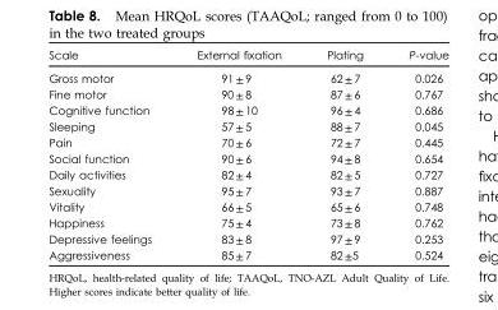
<table><thead><tr><td>Scale</td><td>External fixation</td><td>Plating</td><td>P-value</td></tr></thead><tbody><tr><td>Gross motor</td><td>91 ± 9</td><td>62 ± 7</td><td>0.026</td></tr><tr><td>Fine motor</td><td>90 ± 8</td><td>87 ± 6</td><td>0.767</td></tr><tr><td>Cognitive function</td><td>98 ± 10</td><td>96 ± 4</td><td>0.686</td></tr><tr><td>Sleeping</td><td>57 ± 5</td><td>88 ± 7</td><td>0.045</td></tr><tr><td>Pain</td><td>70 ± 6</td><td>72 ± 7</td><td>0.445</td></tr><tr><td>Social function</td><td>90 ± 6</td><td>94 ± 8</td><td>0.654</td></tr><tr><td>Daily activities</td><td>82 ± 4</td><td>82 ± 5</td><td>0.727</td></tr><tr><td>Sexuality</td><td>95 ± 7</td><td>93 ± 7</td><td>0.887</td></tr><tr><td>Vitality</td><td>66 ± 5</td><td>65 ± 6</td><td>0.748</td></tr><tr><td>Happiness</td><td>75 ± 4</td><td>73 ± 8</td><td>0.762</td></tr><tr><td>Depressive feelings</td><td>83 ± 8</td><td>97 ± 9</td><td>0.253</td></tr><tr><td>Aggressiveness</td><td>85 ± 7</td><td>82 ±5</td><td>0.524</td></tr></tbody></table>